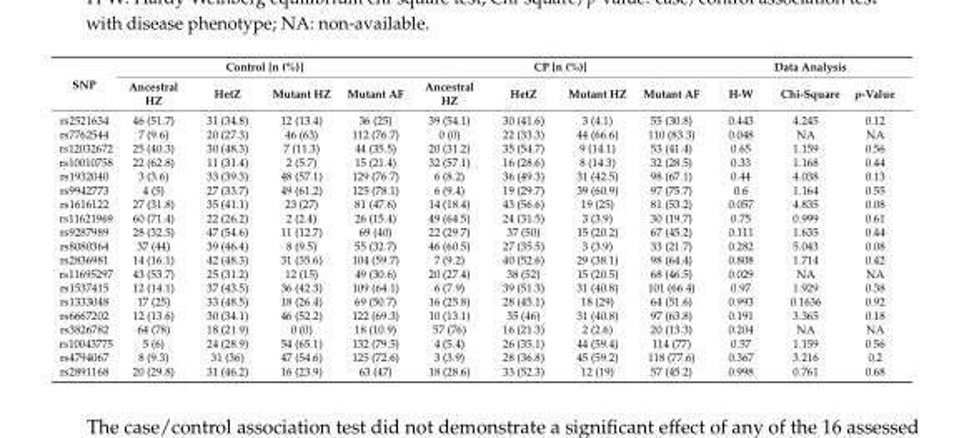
<table><thead><tr><td rowspan="2">SNP</td><td colspan="4">Control [n (%)]</td><td colspan="4">CP [n (%)]</td><td colspan="3">Data Analysis</td></tr><tr><td>Ancestral HZ</td><td>HetZ</td><td>Mutant HZ</td><td>Mutant AF</td><td>Ancestral HZ</td><td>HetZ</td><td>Mutant HZ</td><td>Mutant AF</td><td>H-W</td><td>Chi-Square</td><td>p-Value</td></tr></thead><tbody><tr><td>rs2521634</td><td>46 (51.7)</td><td>31 (34.8)</td><td>12 (13.4)</td><td>36 (25)</td><td>39 (54.1)</td><td>30 (41.6)</td><td>3 (4.1)</td><td>55 (30.8)</td><td>0.443</td><td>4.245</td><td>0.12</td></tr><tr><td>rs7762544</td><td>7 (9.6)</td><td>20 (27.3)</td><td>46 (63)</td><td>112 (76.7)</td><td>0 (0)</td><td>22 (33.3)</td><td>44 (66.6)</td><td>110 (83.3)</td><td>0.048</td><td>NA</td><td>NA</td></tr><tr><td>rs12032672</td><td>25 (40.3)</td><td>30 (48.3)</td><td>7 (11.3)</td><td>44 (35.5)</td><td>20 (31.2)</td><td>35 (54.7)</td><td>9 (14.1)</td><td>53 (41.4)</td><td>0.65</td><td>1.159</td><td>0.56</td></tr><tr><td>rs10010758</td><td>22 (62.8)</td><td>11 (31.4)</td><td>2 (5.7)</td><td>15 (21.4)</td><td>32 (57.1)</td><td>16 (28.6)</td><td>8 (14.3)</td><td>32 (28.5)</td><td>0.33</td><td>1.168</td><td>0.44</td></tr><tr><td>rs1932040</td><td>3 (3.6)</td><td>33 (39.3)</td><td>48 (57.1)</td><td>129 (76.7)</td><td>6 (8.2)</td><td>36 (49.3)</td><td>31 (42.5)</td><td>98 (67.1)</td><td>0.44</td><td>4.038</td><td>0.13</td></tr><tr><td>rs9942773</td><td>4 (5)</td><td>27 (33.7)</td><td>49 (61.2)</td><td>125 (78.1)</td><td>6 (9.4)</td><td>19 (29.7)</td><td>39 (60.9)</td><td>97 (75.7)</td><td>0.6</td><td>1.164</td><td>0.55</td></tr><tr><td>rs1616122</td><td>27 (31.8)</td><td>35 (41.1)</td><td>23 (27)</td><td>81 (47.6)</td><td>14 (18.4)</td><td>43 (56.6)</td><td>19 (25)</td><td>81 (53.2)</td><td>0.057</td><td>4.835</td><td>0.08</td></tr><tr><td>rs11621969</td><td>60 (71.4)</td><td>22 (26.2)</td><td>2 (2.4)</td><td>26 (15.4)</td><td>49 (64.5)</td><td>24 (31.5)</td><td>3 (3.9)</td><td>30 (19.7)</td><td>0.75</td><td>0.999</td><td>0.61</td></tr><tr><td>rs9287989</td><td>28 (32.5)</td><td>47 (54.6)</td><td>11 (12.7)</td><td>69 (40)</td><td>22 (29.7)</td><td>37 (50)</td><td>15 (20.2)</td><td>67 (45.2)</td><td>0.111</td><td>1.635</td><td>0.44</td></tr><tr><td>rs8080364</td><td>37 (44)</td><td>39 (46.4)</td><td>8 (9.5)</td><td>55 (32.7)</td><td>46 (60.5)</td><td>27 (35.5)</td><td>3 (3.9)</td><td>33 (21.7)</td><td>0.282</td><td>5.043</td><td>0.08</td></tr><tr><td>rs2836981</td><td>14 (16.1)</td><td>42 (48.3)</td><td>31 (35.6)</td><td>104 (59.7)</td><td>7 (9.2)</td><td>40 (52.6)</td><td>29 (38.1)</td><td>98 (64.4)</td><td>0.808</td><td>1.714</td><td>0.42</td></tr><tr><td>rs11695297</td><td>43 (53.7)</td><td>25 (31.2)</td><td>12 (15)</td><td>49 (30.6)</td><td>20 (27.4)</td><td>38 (52)</td><td>15 (20.5)</td><td>68 (46.5)</td><td>0.029</td><td>NA</td><td>NA</td></tr><tr><td>rs1537415</td><td>12 (14.1)</td><td>37 (43.5)</td><td>36 (42.3)</td><td>109 (64.1)</td><td>6 (7.9)</td><td>39 (51.3)</td><td>31 (40.8)</td><td>101 (66.4)</td><td>0.97</td><td>1.929</td><td>0.38</td></tr><tr><td>rs1333048</td><td>17 (25)</td><td>33 (48.5)</td><td>18 (26.4)</td><td>69 (50.7)</td><td>16 (25.8)</td><td>28 (45.1)</td><td>18 (29)</td><td>64 (51.6)</td><td>0.993</td><td>0.1636</td><td>0.92</td></tr><tr><td>rs6667202</td><td>12 (13.6)</td><td>30 (34.1)</td><td>46 (52.2)</td><td>122 (69.3)</td><td>10 (13.1)</td><td>35 (46)</td><td>31 (40.8)</td><td>97 (63.8)</td><td>0.191</td><td>3.365</td><td>0.18</td></tr><tr><td>rs3826782</td><td>64 (78)</td><td>18 (21.9)</td><td>0 (0)</td><td>18 (10.9)</td><td>57 (76)</td><td>16 (21.3)</td><td>2 (2.6)</td><td>20 (13.3)</td><td>0.204</td><td>NA</td><td>NA</td></tr><tr><td>rs10043775</td><td>5 (6)</td><td>24 (28.9)</td><td>54 (65.1)</td><td>132 (79.5)</td><td>4 (5.4)</td><td>26 (35.1)</td><td>44 (59.4)</td><td>114 (77)</td><td>0.57</td><td>1.159</td><td>0.56</td></tr><tr><td>rs4794067</td><td>8 (9.3)</td><td>31 (36)</td><td>47 (54.6)</td><td>125 (72.6)</td><td>3 (3.9)</td><td>28 (36.8)</td><td>45 (59.2)</td><td>118 (77.6)</td><td>0.367</td><td>3.216</td><td>0.2</td></tr><tr><td>rs2891168</td><td>20 (29.8)</td><td>31 (46.2)</td><td>16 (23.9)</td><td>63 (47)</td><td>18 (28.6)</td><td>33 (52.3)</td><td>12 (19)</td><td>57 (45.2)</td><td>0.998</td><td>0.761</td><td>0.68</td></tr></tbody></table>